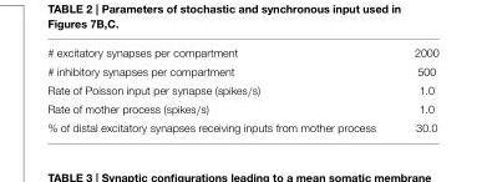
<table><tbody><tr><td># excitatory synapses per compartment</td><td>2000</td></tr><tr><td># inhibitory synapses per compartment</td><td>500</td></tr><tr><td>Rate of Poisson input per synapse (spikes/s)</td><td>1.0</td></tr><tr><td>Rate of mother process (spikes/s)</td><td>1.0</td></tr><tr><td>% of distal excitatory synapses receiving inputs from mother process</td><td>30.0</td></tr></tbody></table>